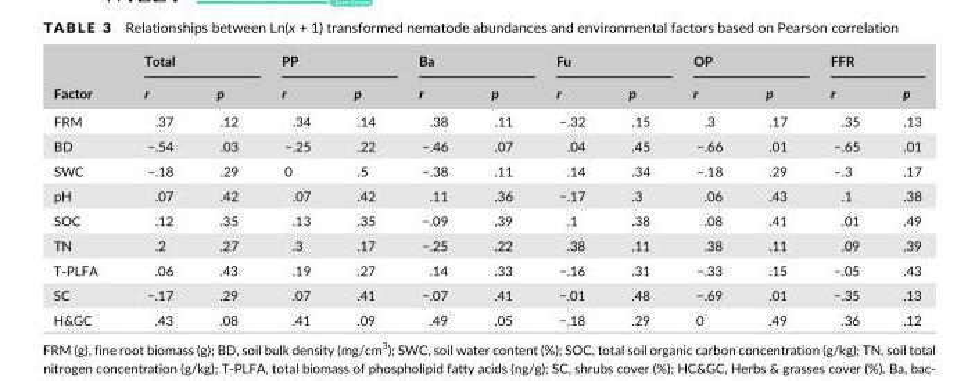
<table><thead><tr><td rowspan="2">Factor</td><td colspan="2">Total</td><td colspan="2">PP</td><td colspan="2">Ba</td><td colspan="2">Fu</td><td colspan="2">OP</td><td colspan="2">FFR</td></tr><tr><td>r</td><td>p</td><td>r</td><td>p</td><td>r</td><td>p</td><td>r</td><td>p</td><td>r</td><td>p</td><td>r</td><td>p</td></tr></thead><tbody><tr><td>FRM</td><td>.37</td><td>.12</td><td>.34</td><td>.14</td><td>.38</td><td>.11</td><td>−.32</td><td>.15</td><td>.3</td><td>.17</td><td>.35</td><td>.13</td></tr><tr><td>BD</td><td>−.54</td><td>.03</td><td>−.25</td><td>.22</td><td>−.46</td><td>.07</td><td>.04</td><td>.45</td><td>−.66</td><td>.01</td><td>−.65</td><td>.01</td></tr><tr><td>SWC</td><td>−.18</td><td>.29</td><td>0</td><td>.5</td><td>−.38</td><td>.11</td><td>.14</td><td>.34</td><td>−.18</td><td>.29</td><td>−.3</td><td>.17</td></tr><tr><td>pH</td><td>.07</td><td>.42</td><td>.07</td><td>.42</td><td>.11</td><td>.36</td><td>−.17</td><td>.3</td><td>.06</td><td>.43</td><td>.1</td><td>.38</td></tr><tr><td>SOC</td><td>.12</td><td>.35</td><td>.13</td><td>.35</td><td>−.09</td><td>.39</td><td>.1</td><td>.38</td><td>.08</td><td>.41</td><td>.01</td><td>.49</td></tr><tr><td>TN</td><td>.2</td><td>.27</td><td>.3</td><td>.17</td><td>−.25</td><td>.22</td><td>.38</td><td>.11</td><td>.38</td><td>.11</td><td>.09</td><td>.39</td></tr><tr><td>T- PLFA</td><td>.06</td><td>.43</td><td>.19</td><td>.27</td><td>.14</td><td>.33</td><td>−.16</td><td>.31</td><td>−.33</td><td>.15</td><td>−.05</td><td>.43</td></tr><tr><td>SC</td><td>−.17</td><td>.29</td><td>.07</td><td>.41</td><td>−.07</td><td>.41</td><td>−.01</td><td>.48</td><td>−.69</td><td>.01</td><td>−.35</td><td>.13</td></tr><tr><td>H&amp;GC</td><td>.43</td><td>.08</td><td>.41</td><td>.09</td><td>.49</td><td>.05</td><td>−.18</td><td>.29</td><td>0</td><td>.49</td><td>.36</td><td>.12</td></tr></tbody></table>